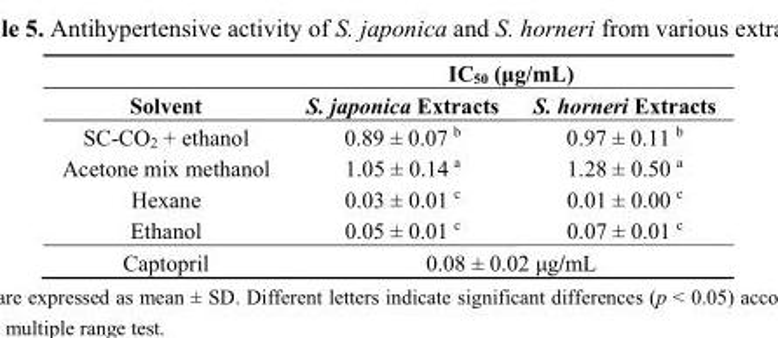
<table><thead><tr><td rowspan="2">Solvent</td><td colspan="2">IC<sub>50</sub> (μg/mL)</td></tr><tr><td>S. japonica Extracts</td><td>S. horneri Extracts</td></tr></thead><tbody><tr><td>SC-CO<sub>2</sub> + ethanol</td><td>0.89 ± 0.07 <sup>b</sup></td><td>0.97 ± 0.11 <sup>b</sup></td></tr><tr><td>Acetone mix methanol</td><td>1.05 ± 0.14 <sup>a</sup></td><td>1.28 ± 0.50 <sup>a</sup></td></tr><tr><td>Hexane</td><td>0.03 ± 0.01 <sup>c</sup></td><td>0.01 ± 0.00 <sup>c</sup></td></tr><tr><td>Ethanol</td><td>0.05 ± 0.01 <sup>c</sup></td><td>0.07 ± 0.01 <sup>c</sup></td></tr><tr><td>Captopril</td><td colspan="2">0.08 ± 0.02 μg/mL</td></tr></tbody></table>